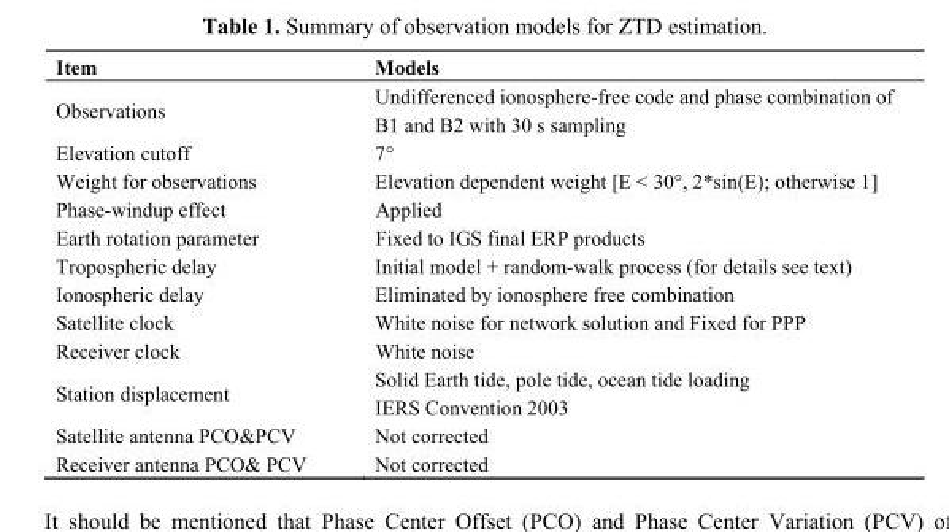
<table><thead><tr><td>Item</td><td>Models</td></tr></thead><tbody><tr><td>Observations</td><td>Undifferenced ionosphere-free code and phase combination of B1 and B2 with 30 s sampling</td></tr><tr><td>Elevation cutoff</td><td>7°</td></tr><tr><td>Weight for observations</td><td>Elevation dependent weight [E &lt; 30°, 2*sin(E); otherwise 1]</td></tr><tr><td>Phase-windup effect</td><td>Applied</td></tr><tr><td>Earth rotation parameter</td><td>Fixed to IGS final ERP products</td></tr><tr><td>Tropospheric delay</td><td>Initial model + random-walk process (for details see text)</td></tr><tr><td>Ionospheric delay</td><td>Eliminated by ionosphere free combination</td></tr><tr><td>Satellite clock</td><td>White noise for network solution and Fixed for PPP</td></tr><tr><td>Receiver clock</td><td>White noise</td></tr><tr><td>Station displacement</td><td>Solid Earth tide, pole tide, ocean tide loading IERS Convention 2003</td></tr><tr><td>Satellite antenna PCO&amp;PCV</td><td>Not corrected</td></tr><tr><td>Receiver antenna PCO&amp; PCV</td><td>Not corrected</td></tr></tbody></table>